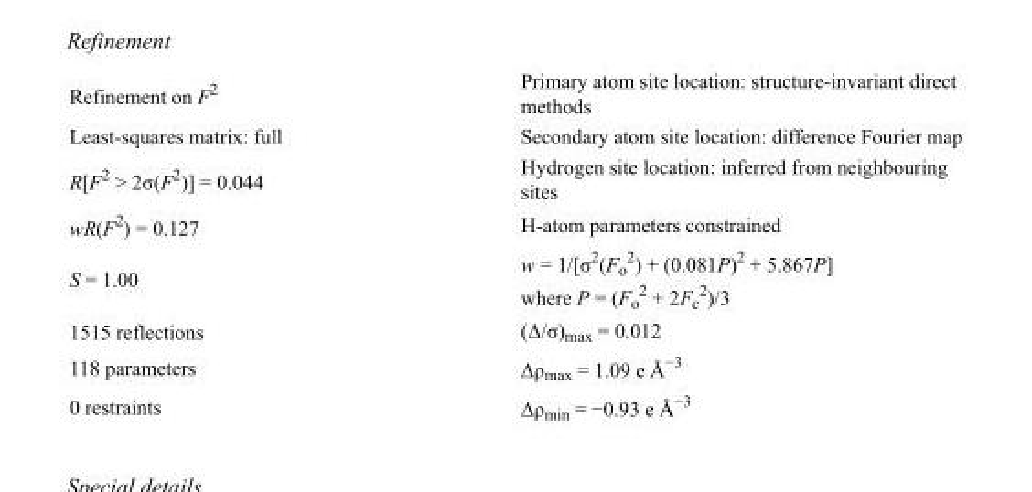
<table><tbody><tr><td>Refinement on F<sup>2</sup></td><td>Primary atom site location: structure-invariant direct methods</td></tr><tr><td>Least-squares matrix: full</td><td>Secondary atom site location: difference Fourier map</td></tr><tr><td>R[F<sup>2</sup> &gt; 2σ(F<sup>2</sup>)] = 0.044</td><td>Hydrogen site location: inferred from neighbouring sites</td></tr><tr><td>wR(F<sup>2</sup>) = 0.127</td><td>H-atom parameters constrained</td></tr><tr><td>S = 1.00</td><td>w = 1/[σ<sup>2</sup>(F<sub>o</sub> <sup>2</sup>) + (0.081P)<sup>2</sup> + 5.867P] where P = (F<sub>o</sub> <sup>2</sup> + 2F<sub>c</sub> <sup>2</sup>)/3</td></tr><tr><td>1515 reflections</td><td>(Δ/σ)<sub>max</sub> = 0.012</td></tr><tr><td>118 parameters</td><td>Δρ<sub>max</sub> = 1.09 e Å<sup>−3</sup></td></tr><tr><td>0 restraints</td><td>Δρ<sub>min</sub> = −0.93 e Å<sup>−3</sup></td></tr></tbody></table>